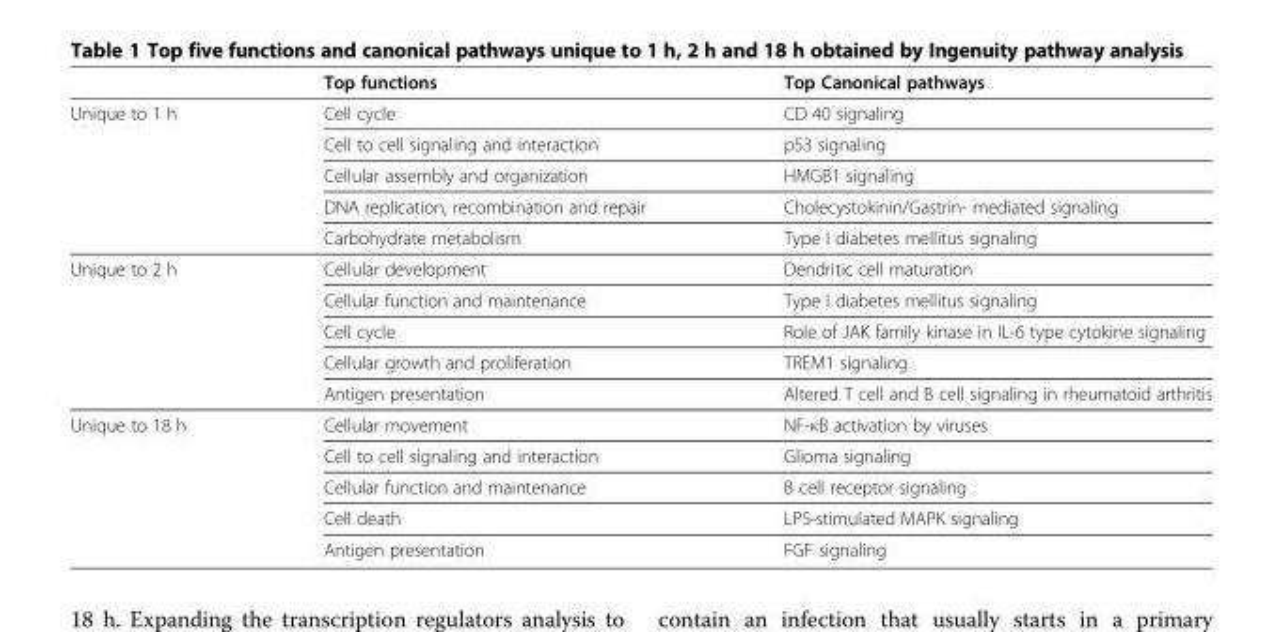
<table><thead><tr><td></td><td>Top functions</td><td>Top Canonical pathways</td></tr></thead><tbody><tr><td rowspan="5">Unique to 1 h</td><td>Cell cycle</td><td>CD 40 signaling</td></tr><tr><td>Cell to cell signaling and interaction</td><td>p53 signaling</td></tr><tr><td>Cellular assembly and organization</td><td>HMGB1 signaling</td></tr><tr><td>DNA replication, recombination and repair</td><td>Cholecystokinin/Gastrin- mediated signaling</td></tr><tr><td>Carbohydrate metabolism</td><td>Type I diabetes mellitus signaling</td></tr><tr><td rowspan="5">Unique to 2 h</td><td>Cellular development</td><td>Dendritic cell maturation</td></tr><tr><td>Cellular function and maintenance</td><td>Type I diabetes mellitus signaling</td></tr><tr><td>Cell cycle</td><td>Role of JAK family kinase in IL-6 type cytokine signaling</td></tr><tr><td>Cellular growth and proliferation</td><td>TREM1 signaling</td></tr><tr><td>Antigen presentation</td><td>Altered T cell and B cell signaling in rheumatoid arthritis</td></tr><tr><td rowspan="5">Unique to 18 h</td><td>Cellular movement</td><td>NF-κB activation by viruses</td></tr><tr><td>Cell to cell signaling and interaction</td><td>Glioma signaling</td></tr><tr><td>Cellular function and maintenance</td><td>B cell receptor signaling</td></tr><tr><td>Cell death</td><td>LPS-stimulated MAPK signaling</td></tr><tr><td>Antigen presentation</td><td>FGF signaling</td></tr></tbody></table>